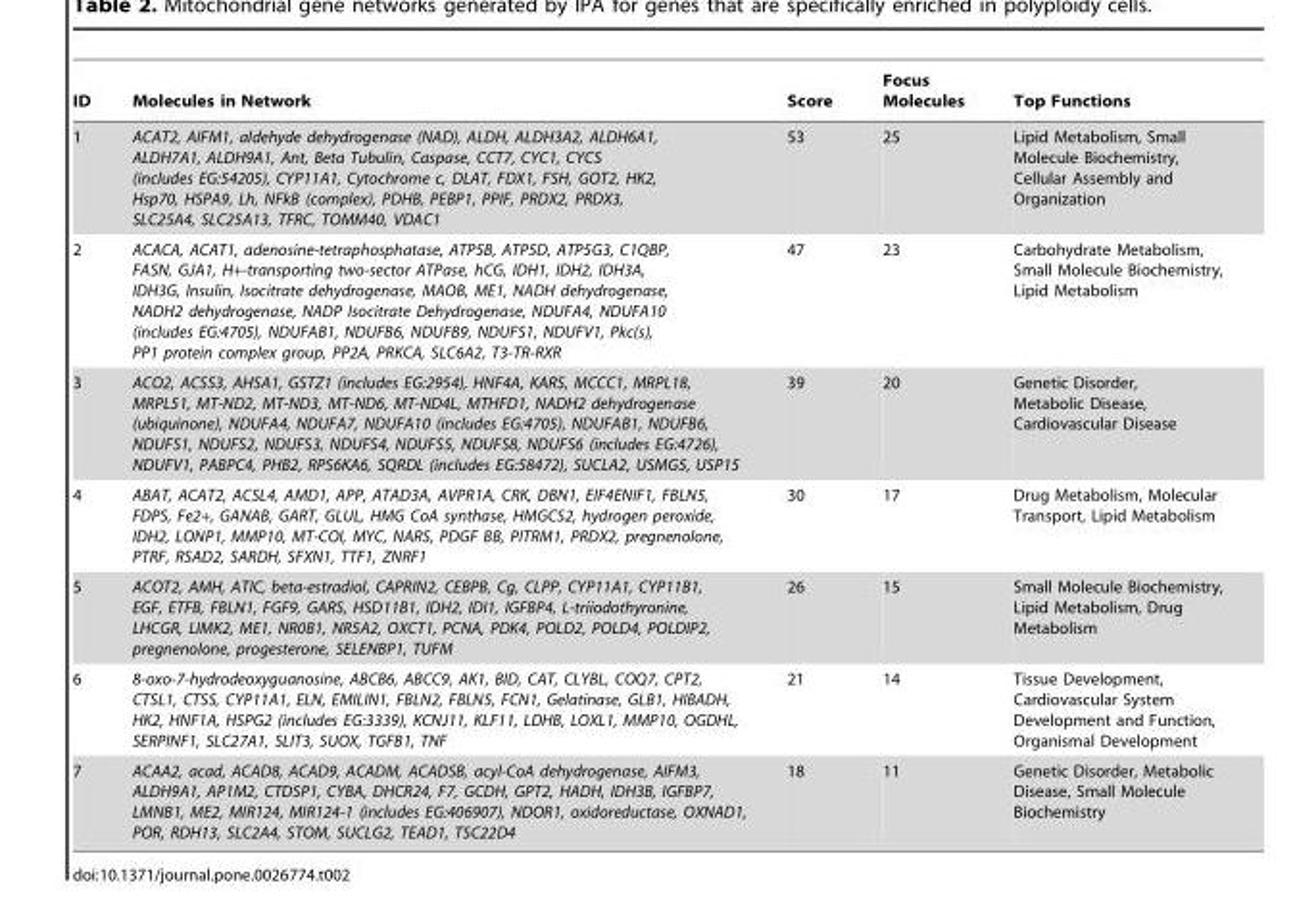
<table><thead><tr><td>ID</td><td>Molecules in Network</td><td>Score</td><td>Focus Molecules</td><td>Top Functions</td></tr></thead><tbody><tr><td>1</td><td>ACAT2, AIFM1, aldehyde dehydrogenase (NAD), ALDH, ALDH3A2, ALDH6A1, ALDH7A1, ALDH9A1, Ant, Beta Tubulin, Caspase, CCT7, CYC1, CYCS (includes EG:54205), CYP11A1, Cytochrome c, DLAT, FDX1, FSH, GOT2, HK2, Hsp70, HSPA9, Lh, NFkB (complex), PDHB, PEBP1, PPIF, PRDX2, PRDX3, SLC25A4, SLC25A13, TFRC, TOMM40, VDAC1</td><td>53</td><td>25</td><td>Lipid Metabolism, Small Molecule Biochemistry, Cellular Assembly and Organization</td></tr><tr><td>2</td><td>ACACA, ACAT1, adenosine-tetraphosphatase, ATP5B, ATP5D, ATP5G3, C1QBP, FASN, GJA1, H+-transporting two-sector ATPase, hCG, IDH1, IDH2, IDH3A, IDH3G, Insulin, Isocitrate dehydrogenase, MAOB, ME1, NADH dehydrogenase, NADH2 dehydrogenase, NADP Isocitrate Dehydrogenase, NDUFA4, NDUFA10 (includes EG:4705), NDUFAB1, NDUFB6, NDUFB9, NDUFS1, NDUFV1, Pkc(s), PP1 protein complex group, PP2A, PRKCA, SLC6A2, T3-TR-RXR</td><td>47</td><td>23</td><td>Carbohydrate Metabolism, Small Molecule Biochemistry, Lipid Metabolism</td></tr><tr><td>3</td><td>ACO2, ACSS3, AHSA1, GSTZ1 (includes EG:2954), HNF4A, KARS, MCCC1, MRPL18, MRPL51, MT-ND2, MT-ND3, MT-ND6, MT-ND4L, MTHFD1, NADH2 dehydrogenase (ubiquinone), NDUFA4, NDUFA7, NDUFA10 (includes EG:4705), NDUFAB1, NDUFB6, NDUFS1, NDUFS2, NDUFS3, NDUFS4, NDUFS5, NDUFS8, NDUFS6 (includes EG:4726), NDUFV1, PABPC4, PHB2, RPS6KA6, SQRDL (includes EG:58472), SUCLA2, USMG5, USP15</td><td>39</td><td>20</td><td>Genetic Disorder, Metabolic Disease, Cardiovascular Disease</td></tr><tr><td>4</td><td>ABAT, ACAT2, ACSL4, AMD1, APP, ATAD3A, AVPR1A, CRK, DBN1, EIF4ENIF1, FBLN5, FDPS, Fe2+, GANAB, GART, GLUL, HMG CoA synthase, HMGCS2, hydrogen peroxide, IDH2, LONP1, MMP10, MT-COI, MYC, NARS, PDGF BB, PITRM1, PRDX2, pregnenolone, PTRF, RSAD2, SARDH, SFXN1, TTF1, ZNRF1</td><td>30</td><td>17</td><td>Drug Metabolism, Molecular Transport, Lipid Metabolism</td></tr><tr><td>5</td><td>ACOT2, AMH, ATIC, beta-estradiol, CAPRIN2, CEBPB, Cg, CLPP, CYP11A1, CYP11B1, EGF, ETFB, FBLN1, FGF9, GARS, HSD11B1, IDH2, IDI1, IGFBP4, L-triiodothyronine, LHCGR, LIMK2, ME1, NR0B1, NR5A2, OXCT1, PCNA, PDK4, POLD2, POLD4, POLDIP2, pregnenolone, progesterone, SELENBP1, TUFM</td><td>26</td><td>15</td><td>Small Molecule Biochemistry, Lipid Metabolism, Drug Metabolism</td></tr><tr><td>6</td><td>8-oxo-7-hydrodeoxyguanosine, ABCB6, ABCC9, AK1, BID, CAT, CLYBL, COQ7, CPT2, CTSL1, CTSS, CYP11A1, ELN, EMILIN1, FBLN2, FBLN5, FCN1, Gelatinase, GLB1, HIBADH, HK2, HNF1A, HSPG2 (includes EG:3339), KCNJ11, KLF11, LDHB, LOXL1, MMP10, OGDHL, SERPINF1, SLC27A1, SLIT3, SUOX, TGFB1, TNF</td><td>21</td><td>14</td><td>Tissue Development, Cardiovascular System Development and Function, Organismal Development</td></tr><tr><td>7</td><td>ACAA2, acad, ACAD8, ACAD9, ACADM, ACADSB, acyl-CoA dehydrogenase, AIFM3, ALDH9A1, AP1M2, CTDSP1, CYBA, DHCR24, F7, GCDH, GPT2, HADH, IDH3B, IGFBP7, LMNB1, ME2, MIR124, MIR124-1 (includes EG:406907), NDOR1, oxidoreductase, OXNAD1, POR, RDH13, SLC2A4, STOM, SUCLG2, TEAD1, TSC22D4</td><td>18</td><td>11</td><td>Genetic Disorder, Metabolic Disease, Small Molecule Biochemistry</td></tr></tbody></table>